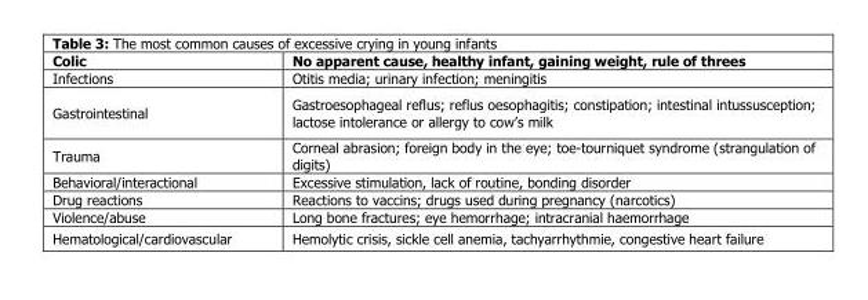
<table><thead><tr><td>Colic</td><td>No apparent cause, healthy infant, gaining weight, rule of threes</td></tr></thead><tbody><tr><td>Infections</td><td>Otitis media; urinary infection; meningitis</td></tr><tr><td>Gastrointestinal</td><td>Gastroesophageal reflus; reflus oesophagitis; constipation; intestinal intussusception; lactose intolerance or allergy to cow’s milk</td></tr><tr><td>Trauma</td><td>Corneal abrasion; foreign body in the eye; toe-tourniquet syndrome (strangulation of digits)</td></tr><tr><td>Behavioral/interactional</td><td>Excessive stimulation, lack of routine, bonding disorder</td></tr><tr><td>Drug reactions</td><td>Reactions to vaccins; drugs used during pregnancy (narcotics)</td></tr><tr><td>Violence/abuse</td><td>Long bone fractures; eye hemorrhage; intracranial haemorrhage</td></tr><tr><td>Hematological/cardiovascular</td><td>Hemolytic crisis, sickle cell anemia, tachyarrhythmie, congestive heart failure</td></tr></tbody></table>